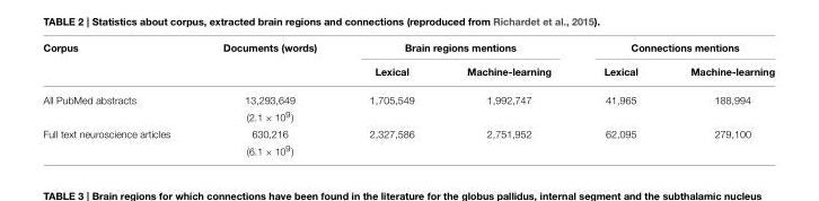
<table><thead><tr><td rowspan="2">Corpus</td><td rowspan="2">Documents (words)</td><td colspan="2">Brain regions mentions</td><td colspan="2">Connections mentions</td></tr><tr><td>Lexical</td><td>Machine-learning</td><td>Lexical</td><td>Machine-learning</td></tr></thead><tbody><tr><td rowspan="2">All PubMed abstracts</td><td>13,293,649</td><td>1,705,549</td><td>1,992,747</td><td>41,965</td><td>188,994</td></tr><tr><td>(2.1 × 10<sup>9</sup>)</td><td></td><td></td><td></td><td></td></tr><tr><td rowspan="2">Full text neuroscience articles</td><td>630,216</td><td>2,327,586</td><td>2,751,952</td><td>62,095</td><td>279,100</td></tr><tr><td>(6.1 × 10<sup>9</sup>)</td><td></td><td></td><td></td><td></td></tr></tbody></table>